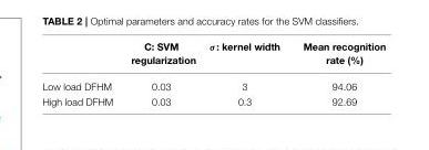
<table><thead><tr><td></td><td>C: SVM regularization</td><td>σ: kernel width</td><td>Mean recognition rate (%)</td></tr></thead><tbody><tr><td>Low load DFHM</td><td>0.03</td><td>3</td><td>94.06</td></tr><tr><td>High load DFHM</td><td>0.03</td><td>0.3</td><td>92.69</td></tr></tbody></table>